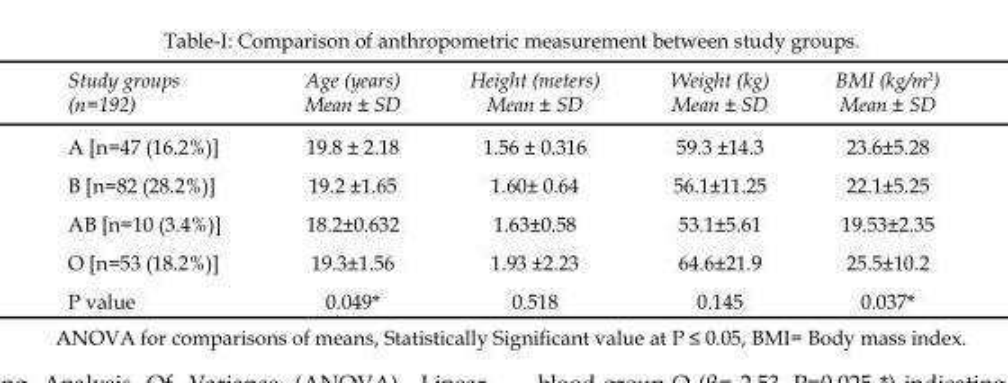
<table><thead><tr><td>Study groups (n=192)</td><td>Age (years) Mean ± SD</td><td>Height (meters) Mean ± SD</td><td>Weight (kg) Mean ± SD</td><td>BMI (kg/m<sup>2</sup>) Mean ± SD</td></tr></thead><tbody><tr><td>A [n=47 (16.2%)]</td><td>19.8 ± 2.18</td><td>1.56 ± 0.316</td><td>59.3 ±14.3</td><td>23.6±5.28</td></tr><tr><td>B [n=82 (28.2%)]</td><td>19.2 ±1.65</td><td>1.60± 0.64</td><td>56.1±11.25</td><td>22.1±5.25</td></tr><tr><td>AB [n=10 (3.4%)]</td><td>18.2±0.632</td><td>1.63±0.58</td><td>53.1±5.61</td><td>19.53±2.35</td></tr><tr><td>O [n=53 (18.2%)]</td><td>19.3±1.56</td><td>1.93 ±2.23</td><td>64.6±21.9</td><td>25.5±10.2</td></tr><tr><td>P value</td><td>0.049*</td><td>0.518</td><td>0.145</td><td>0.037*</td></tr></tbody></table>